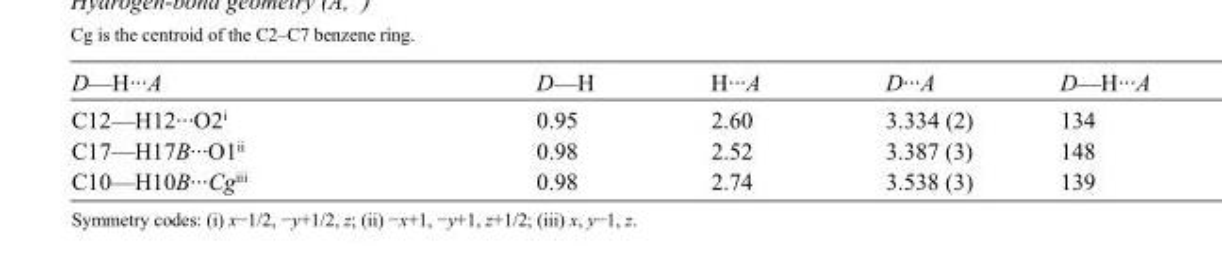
<table><tbody><tr><td>D—H···A</td><td>D—H</td><td>H···A</td><td>D···A</td><td>D—H···A</td></tr><tr><td>C12—H12···O2<sup>i</sup></td><td>0.95</td><td>2.60</td><td>3.334 (2)</td><td>134</td></tr><tr><td>C17—H17B···O1<sup>ii</sup></td><td>0.98</td><td>2.52</td><td>3.387 (3)</td><td>148</td></tr><tr><td>C10—H10B···Cg<sup>iii</sup></td><td>0.98</td><td>2.74</td><td>3.538 (3)</td><td>139</td></tr></tbody></table>